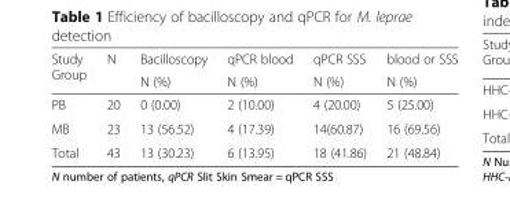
<table><thead><tr><td rowspan="2">Study Group</td><td rowspan="2">N</td><td rowspan="2">Bacilloscopy N (%)</td><td rowspan="2">qPCR blood N (%)</td><td rowspan="2">qPCR SSS N (%)</td><td rowspan="2">blood or SSS N (%)</td></tr><tr></tr></thead><tbody><tr><td>PB</td><td>20</td><td>0 (0.00)</td><td>2 (10.00)</td><td>4 (20.00)</td><td>5 (25.00)</td></tr><tr><td>MB</td><td>23</td><td>13 (56.52)</td><td>4 (17.39)</td><td>14(60.87)</td><td>16 (69.56)</td></tr><tr><td>Total</td><td>43</td><td>13 (30.23)</td><td>6 (13.95)</td><td>18 (41.86)</td><td>21 (48.84)</td></tr></tbody></table>